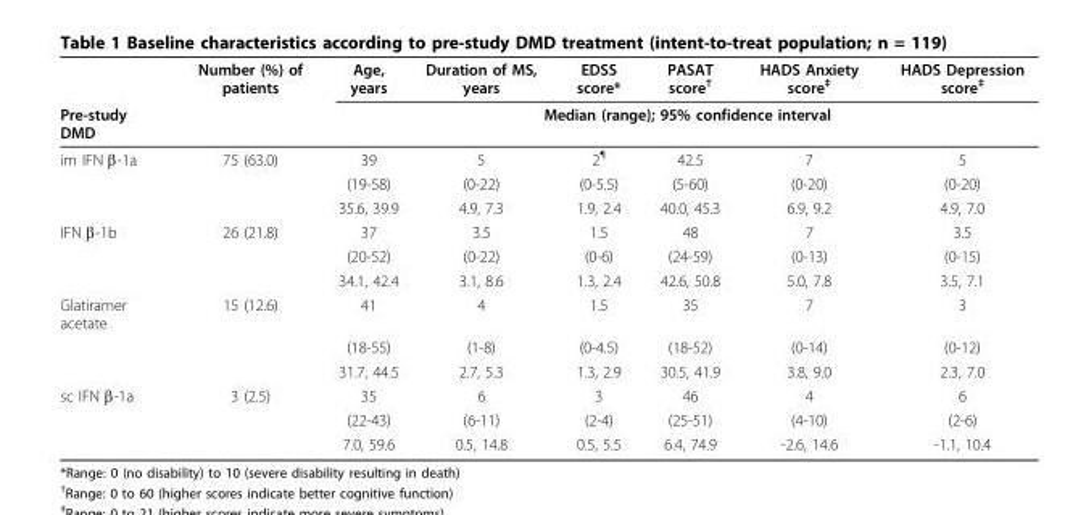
<table><thead><tr><td rowspan="2">Pre-study DMD</td><td rowspan="2">Number (%) of patients</td><td>Age, years</td><td>Duration of MS, years</td><td>EDSS score*</td><td>PASAT score<sup>†</sup></td><td>HADS Anxiety score<sup>‡</sup></td><td>HADS Depression score<sup>‡</sup></td></tr><tr><td colspan="6">Median (range); 95% confidence interval</td></tr></thead><tbody><tr><td rowspan="3">im IFN β-1a</td><td>75 (63.0)</td><td>39</td><td>5</td><td>2<sup>¶</sup></td><td>42.5</td><td>7</td><td>5</td></tr><tr><td></td><td>(19-58)</td><td>(0-22)</td><td>(0-5.5)</td><td>(5-60)</td><td>(0-20)</td><td>(0-20)</td></tr><tr><td></td><td>35.6, 39.9</td><td>4.9, 7.3</td><td>1.9, 2.4</td><td>40.0, 45.3</td><td>6.9, 9.2</td><td>4.9, 7.0</td></tr><tr><td rowspan="3">IFN β-1b</td><td>26 (21.8)</td><td>37</td><td>3.5</td><td>1.5</td><td>48</td><td>7</td><td>3.5</td></tr><tr><td></td><td>(20-52)</td><td>(0-22)</td><td>(0-6)</td><td>(24-59)</td><td>(0-13)</td><td>(0-15)</td></tr><tr><td></td><td>34.1, 42.4</td><td>3.1, 8.6</td><td>1.3, 2.4</td><td>42.6, 50.8</td><td>5.0, 7.8</td><td>3.5, 7.1</td></tr><tr><td rowspan="3">Glatiramer acetate</td><td>15 (12.6)</td><td>41</td><td>4</td><td>1.5</td><td>35</td><td>7</td><td>3</td></tr><tr><td></td><td>(18-55)</td><td>(1-8)</td><td>(0-4.5)</td><td>(18-52)</td><td>(0-14)</td><td>(0-12)</td></tr><tr><td></td><td>31.7, 44.5</td><td>2.7, 5.3</td><td>1.3, 2.9</td><td>30.5, 41.9</td><td>3.8, 9.0</td><td>2.3, 7.0</td></tr><tr><td rowspan="3">sc IFN β-1a</td><td>3 (2.5)</td><td>35</td><td>6</td><td>3</td><td>46</td><td>4</td><td>6</td></tr><tr><td></td><td>(22-43)</td><td>(6-11)</td><td>(2-4)</td><td>(25-51)</td><td>(4-10)</td><td>(2-6)</td></tr><tr><td></td><td>7.0, 59.6</td><td>0.5, 14.8</td><td>0.5, 5.5</td><td>6.4, 74.9</td><td>-2.6, 14.6</td><td>-1.1, 10.4</td></tr></tbody></table>